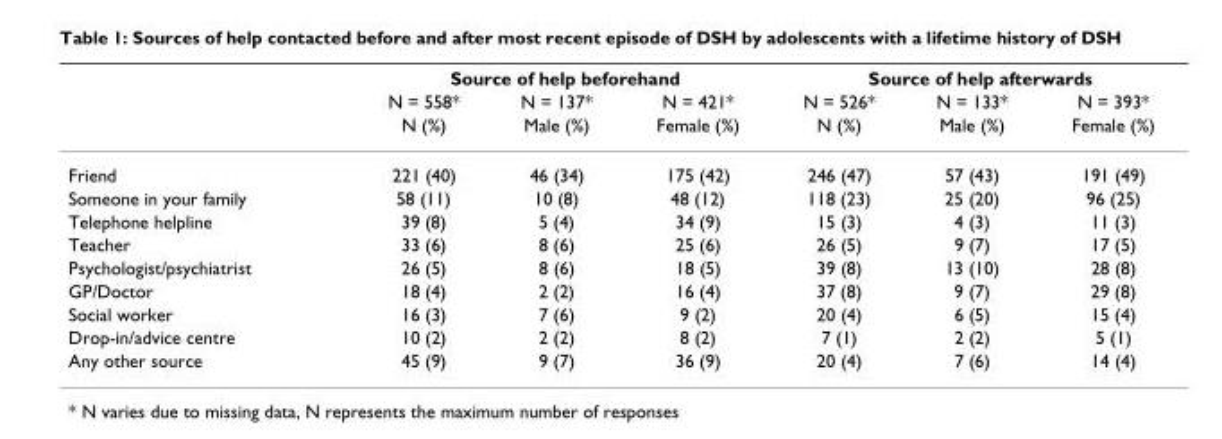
<table><thead><tr><td rowspan="3"></td><td colspan="3">Source of help beforehand</td><td colspan="3">Source of help afterwards</td></tr><tr><td rowspan="2">N = 558* N (%)</td><td rowspan="2">N = 137* Male (%)</td><td rowspan="2">N = 421* Female (%)</td><td rowspan="2">N = 526* N (%)</td><td rowspan="2">N = 133* Male (%)</td><td rowspan="2">N = 393* Female (%)</td></tr><tr></tr></thead><tbody><tr><td>Friend</td><td>221 (40)</td><td>46 (34)</td><td>175 (42)</td><td>246 (47)</td><td>57 (43)</td><td>191 (49)</td></tr><tr><td>Someone in your family</td><td>58 (11)</td><td>10 (8)</td><td>48 (12)</td><td>118 (23)</td><td>25 (20)</td><td>96 (25)</td></tr><tr><td>Telephone helpline</td><td>39 (8)</td><td>5 (4)</td><td>34 (9)</td><td>15 (3)</td><td>4 (3)</td><td>11 (3)</td></tr><tr><td>Teacher</td><td>33 (6)</td><td>8 (6)</td><td>25 (6)</td><td>26 (5)</td><td>9 (7)</td><td>17 (5)</td></tr><tr><td>Psychologist/psychiatrist</td><td>26 (5)</td><td>8 (6)</td><td>18 (5)</td><td>39 (8)</td><td>13 (10)</td><td>28 (8)</td></tr><tr><td>GP/Doctor</td><td>18 (4)</td><td>2 (2)</td><td>16 (4)</td><td>37 (8)</td><td>9 (7)</td><td>29 (8)</td></tr><tr><td>Social worker</td><td>16 (3)</td><td>7 (6)</td><td>9 (2)</td><td>20 (4)</td><td>6 (5)</td><td>15 (4)</td></tr><tr><td>Drop-in/advice centre</td><td>10 (2)</td><td>2 (2)</td><td>8 (2)</td><td>7 (1)</td><td>2 (2)</td><td>5 (1)</td></tr><tr><td>Any other source</td><td>45 (9)</td><td>9 (7)</td><td>36 (9)</td><td>20 (4)</td><td>7 (6)</td><td>14 (4)</td></tr></tbody></table>